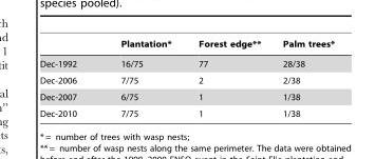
<table><thead><tr><td></td><td>Plantation*</td><td>Forest edge**</td><td>Palm trees*</td></tr></thead><tbody><tr><td>Dec-1992</td><td>16/75</td><td>77</td><td>28/38</td></tr><tr><td>Dec-2006</td><td>7/75</td><td>2</td><td>2/38</td></tr><tr><td>Dec-2007</td><td>6/75</td><td>1</td><td>1/38</td></tr><tr><td>Dec-2010</td><td>7/75</td><td>1</td><td>1/38</td></tr></tbody></table>